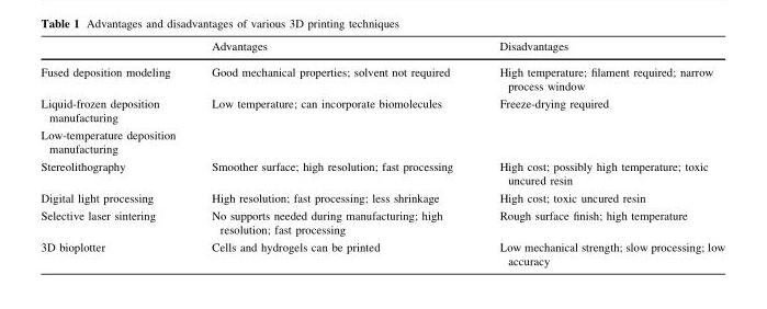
<table><thead><tr><td></td><td>Advantages</td><td>Disadvantages</td></tr></thead><tbody><tr><td>Fused deposition modeling</td><td>Good mechanical properties; solvent not required</td><td>High temperature; filament required; narrow process window</td></tr><tr><td>Liquid-frozen deposition manufacturing</td><td rowspan="2">Low temperature; can incorporate biomolecules</td><td rowspan="2">Freeze-drying required</td></tr><tr><td>Low-temperature deposition manufacturing</td></tr><tr><td>Stereolithography</td><td>Smoother surface; high resolution; fast processing</td><td>High cost; possibly high temperature; toxic uncured resin</td></tr><tr><td>Digital light processing</td><td>High resolution; fast processing; less shrinkage</td><td>High cost; toxic uncured resin</td></tr><tr><td>Selective laser sintering</td><td>No supports needed during manufacturing; high resolution; fast processing</td><td>Rough surface finish; high temperature</td></tr><tr><td>3D bioplotter</td><td>Cells and hydrogels can be printed</td><td>Low mechanical strength; slow processing; low accuracy</td></tr></tbody></table>